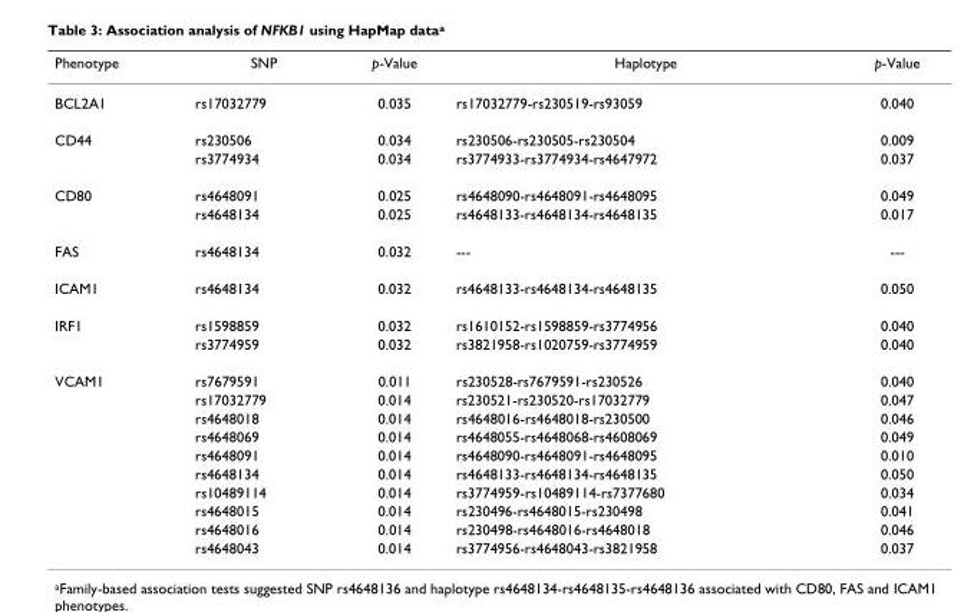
<table><thead><tr><td>Phenotype</td><td>SNP</td><td>p-Value</td><td>Haplotype</td><td>p-Value</td></tr></thead><tbody><tr><td>BCL2A1</td><td>rs17032779</td><td>0.035</td><td>rs17032779-rs230519-rs93059</td><td>0.040</td></tr><tr><td rowspan="2">CD44</td><td>rs230506</td><td>0.034</td><td>rs230506-rs230505-rs230504</td><td>0.009</td></tr><tr><td>rs3774934</td><td>0.034</td><td>rs3774933-rs3774934-rs4647972</td><td>0.037</td></tr><tr><td rowspan="2">CD80</td><td>rs4648091</td><td>0.025</td><td>rs4648090-rs4648091-rs4648095</td><td>0.049</td></tr><tr><td>rs4648134</td><td>0.025</td><td>rs4648133-rs4648134-rs4648135</td><td>0.017</td></tr><tr><td>FAS</td><td>rs4648134</td><td>0.032</td><td>---</td><td>---</td></tr><tr><td>ICAM1</td><td>rs4648134</td><td>0.032</td><td>rs4648133-rs4648134-rs4648135</td><td>0.050</td></tr><tr><td rowspan="2">IRF1</td><td>rs1598859</td><td>0.032</td><td>rs1610152-rs1598859-rs3774956</td><td>0.040</td></tr><tr><td>rs3774959</td><td>0.032</td><td>rs3821958-rs1020759-rs3774959</td><td>0.040</td></tr><tr><td rowspan="10">VCAM1</td><td>rs7679591</td><td>0.011</td><td>rs230528-rs7679591-rs230526</td><td>0.040</td></tr><tr><td>rs17032779</td><td>0.014</td><td>rs230521-rs230520-rs17032779</td><td>0.047</td></tr><tr><td>rs4648018</td><td>0.014</td><td>rs4648016-rs4648018-rs230500</td><td>0.046</td></tr><tr><td>rs4648069</td><td>0.014</td><td>rs4648055-rs4648068-rs4608069</td><td>0.049</td></tr><tr><td>rs4648091</td><td>0.014</td><td>rs4648090-rs4648091-rs4648095</td><td>0.010</td></tr><tr><td>rs4648134</td><td>0.014</td><td>rs4648133-rs4648134-rs4648135</td><td>0.050</td></tr><tr><td>rs10489114</td><td>0.014</td><td>rs3774959-rs10489114-rs7377680</td><td>0.034</td></tr><tr><td>rs4648015</td><td>0.014</td><td>rs230496-rs4648015-rs230498</td><td>0.041</td></tr><tr><td>rs4648016</td><td>0.014</td><td>rs230498-rs4648016-rs4648018</td><td>0.046</td></tr><tr><td>rs4648043</td><td>0.014</td><td>rs3774956-rs4648043-rs3821958</td><td>0.037</td></tr></tbody></table>